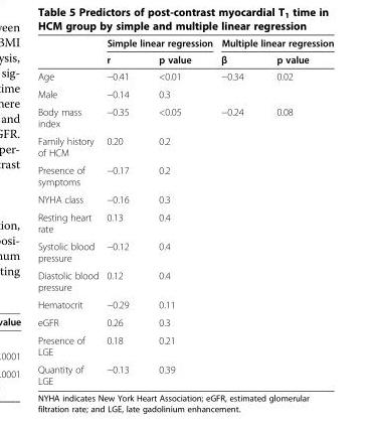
<table><thead><tr><td rowspan="2"></td><td colspan="2">Simple linear regression</td><td colspan="2">Multiple linear regression</td></tr><tr><td>r</td><td>p value</td><td>β</td><td>p value</td></tr></thead><tbody><tr><td>Age</td><td>−0.41</td><td>&lt;0.01</td><td>−0.34</td><td>0.02</td></tr><tr><td>Male</td><td>−0.14</td><td>0.3</td><td></td><td></td></tr><tr><td>Body mass index</td><td>−0.35</td><td>&lt;0.05</td><td>−0.24</td><td>0.08</td></tr><tr><td>Family history of HCM</td><td>0.20</td><td>0.2</td><td></td><td></td></tr><tr><td>Presence of symptoms</td><td>−0.17</td><td>0.2</td><td></td><td></td></tr><tr><td>NYHA class</td><td>−0.16</td><td>0.3</td><td></td><td></td></tr><tr><td>Resting heart rate</td><td>0.13</td><td>0.4</td><td></td><td></td></tr><tr><td>Systolic blood pressure</td><td>−0.12</td><td>0.4</td><td></td><td></td></tr><tr><td>Diastolic blood pressure</td><td>0.12</td><td>0.4</td><td></td><td></td></tr><tr><td>Hematocrit</td><td>−0.29</td><td>0.11</td><td></td><td></td></tr><tr><td>eGFR</td><td>0.26</td><td>0.3</td><td></td><td></td></tr><tr><td>Presence of LGE</td><td>0.18</td><td>0.21</td><td></td><td></td></tr><tr><td>Quantity of LGE</td><td>−0.13</td><td>0.39</td><td></td><td></td></tr></tbody></table>